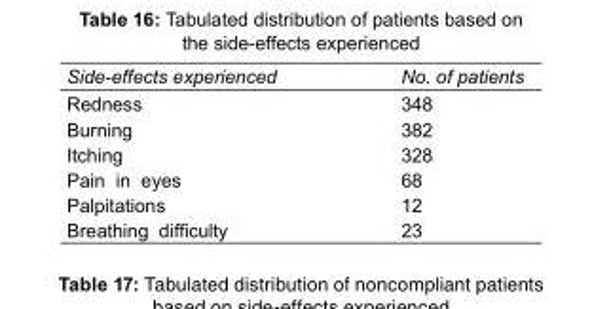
<table><tbody><tr><td>Side-effects experienced</td><td>No. of patients</td></tr><tr><td>Redness</td><td>348</td></tr><tr><td>Burning</td><td>382</td></tr><tr><td>Itching</td><td>328</td></tr><tr><td>Pain in eyes</td><td>68</td></tr><tr><td>Palpitations</td><td>12</td></tr><tr><td>Breathing difficulty</td><td>23</td></tr></tbody></table>